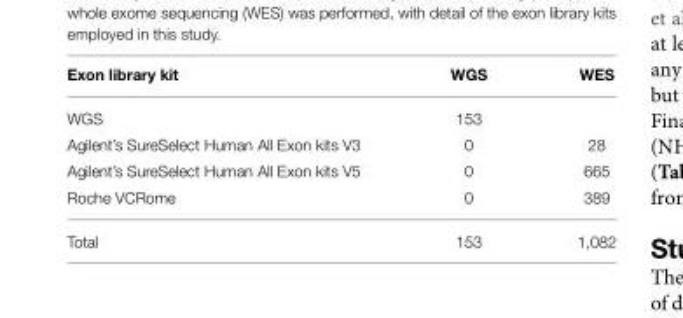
<table><thead><tr><td>Exon library kit</td><td>WGS</td><td>WES</td></tr></thead><tbody><tr><td>WGS</td><td>153</td><td></td></tr><tr><td>Agilent’s SureSelect Human All Exon kits V3</td><td>0</td><td>28</td></tr><tr><td>Agilent’s SureSelect Human All Exon kits V5</td><td>0</td><td>665</td></tr><tr><td>Roche VCRome</td><td>0</td><td>389</td></tr><tr><td>Total</td><td>153</td><td>1,082</td></tr></tbody></table>